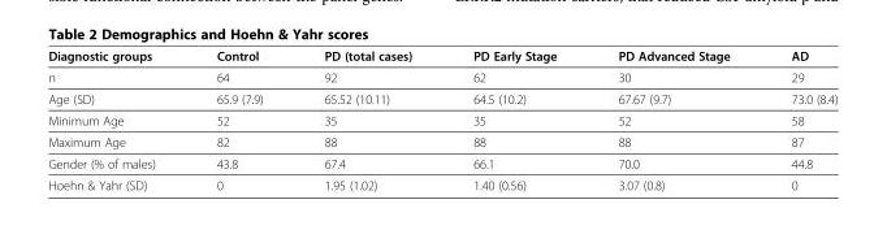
<table><thead><tr><td>Diagnostic groups</td><td>Control</td><td>PD (total cases)</td><td>PD Early Stage</td><td>PD Advanced Stage</td><td>AD</td></tr></thead><tbody><tr><td>n</td><td>64</td><td>92</td><td>62</td><td>30</td><td>29</td></tr><tr><td>Age (SD)</td><td>65.9 (7.9)</td><td>65.52 (10.11)</td><td>64.5 (10.2)</td><td>67.67 (9.7)</td><td>73.0 (8.4)</td></tr><tr><td>Minimum Age</td><td>52</td><td>35</td><td>35</td><td>52</td><td>58</td></tr><tr><td>Maximum Age</td><td>82</td><td>88</td><td>88</td><td>88</td><td>87</td></tr><tr><td>Gender (% of males)</td><td>43.8</td><td>67.4</td><td>66.1</td><td>70.0</td><td>44.8</td></tr><tr><td>Hoehn &amp; Yahr (SD)</td><td>0</td><td>1.95 (1.02)</td><td>1.40 (0.56)</td><td>3.07 (0.8)</td><td>0</td></tr></tbody></table>